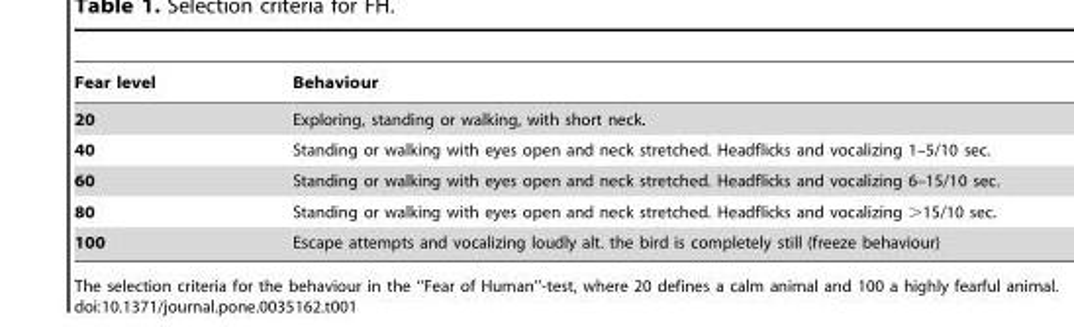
<table><thead><tr><td>Fear level</td><td>Behaviour</td></tr></thead><tbody><tr><td>20</td><td>Exploring, standing or walking, with short neck.</td></tr><tr><td>40</td><td>Standing or walking with eyes open and neck stretched. Headflicks and vocalizing 1–5/10 sec.</td></tr><tr><td>60</td><td>Standing or walking with eyes open and neck stretched. Headflicks and vocalizing 6–15/10 sec.</td></tr><tr><td>80</td><td>Standing or walking with eyes open and neck stretched. Headflicks and vocalizing &gt;15/10 sec.</td></tr><tr><td>100</td><td>Escape attempts and vocalizing loudly alt. the bird is completely still (freeze behaviour)</td></tr></tbody></table>